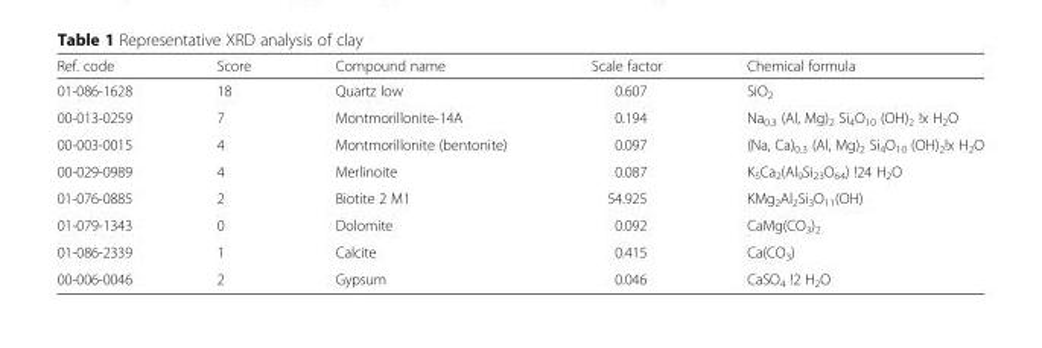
<table><thead><tr><td>Ref. code</td><td>Score</td><td>Compound name</td><td>Scale factor</td><td>Chemical formula</td></tr></thead><tbody><tr><td>01-086-1628</td><td>18</td><td>Quartz low</td><td>0.607</td><td>SiO<sub>2</sub></td></tr><tr><td>00-013-0259</td><td>7</td><td>Montmorillonite-14A</td><td>0.194</td><td>Na<sub>0.3</sub> (Al, Mg)<sub>2</sub> Si<sub>4</sub>O<sub>10</sub> (OH)<sub>2</sub> !x H<sub>2</sub>O</td></tr><tr><td>00-003-0015</td><td>4</td><td>Montmorillonite (bentonite)</td><td>0.097</td><td>(Na, Ca)<sub>0.3</sub> (Al, Mg)<sub>2</sub> Si<sub>4</sub>O<sub>10</sub> (OH)<sub>2</sub>!x H<sub>2</sub>O</td></tr><tr><td>00-029-0989</td><td>4</td><td>Merlinoite</td><td>0.087</td><td>K<sub>5</sub>Ca<sub>2</sub>(Al<sub>9</sub>Si<sub>23</sub>O<sub>64</sub>) !24 H<sub>2</sub>O</td></tr><tr><td>01-076-0885</td><td>2</td><td>Biotite 2 M1</td><td>54.925</td><td>KMg<sub>2</sub>Al<sub>2</sub>Si<sub>3</sub>O<sub>11</sub>(OH)</td></tr><tr><td>01-079-1343</td><td>0</td><td>Dolomite</td><td>0.092</td><td>CaMg(CO<sub>3</sub>)<sub>2</sub></td></tr><tr><td>01-086-2339</td><td>1</td><td>Calcite</td><td>0.415</td><td>Ca(CO<sub>3</sub>)</td></tr><tr><td>00-006-0046</td><td>2</td><td>Gypsum</td><td>0.046</td><td>CaSO<sub>4</sub> !2 H<sub>2</sub>O</td></tr></tbody></table>